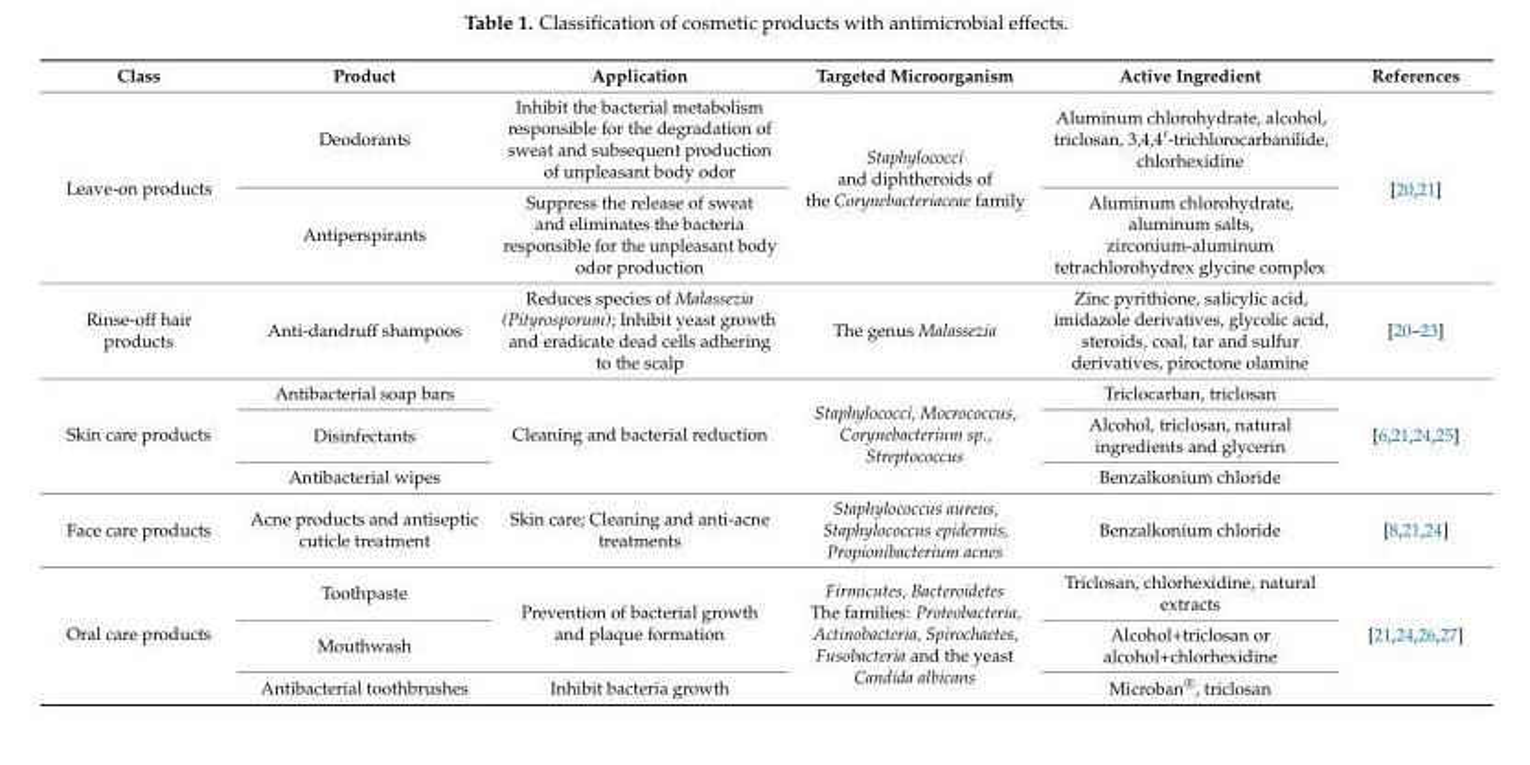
<table><thead><tr><td>Class</td><td>Product</td><td>Application</td><td>Targeted Microorganism</td><td>Active Ingredient</td><td>References</td></tr></thead><tbody><tr><td rowspan="2">Leave-on products</td><td>Deodorants</td><td>Inhibit the bacterial metabolism responsible for the degradation of sweat and subsequent production of unpleasant body odor</td><td rowspan="2">Staphylococci and diphtheroids of the Corynebacteriaceae family</td><td>Aluminum chlorohydrate, alcohol, triclosan, 3,4,4′-trichlorocarbanilide, chlorhexidine</td><td rowspan="2">[20,21]</td></tr><tr><td>Antiperspirants</td><td>Suppress the release of sweat and eliminates the bacteria responsible for the unpleasant body odor production</td><td>Aluminum chlorohydrate, aluminum salts, zirconium-aluminum tetrachlorohydrex glycine complex</td></tr><tr><td>Rinse-off hair products</td><td>Anti-dandruff shampoos</td><td>Reduces species of Malassezia (Pityrosporum); Inhibit yeast growth and eradicate dead cells adhering to the scalp</td><td>The genus Malassezia</td><td>Zinc pyrithione, salicylic acid, imidazole derivatives, glycolic acid, steroids, coal, tar and sulfur derivatives, piroctone olamine</td><td>[20–23]</td></tr><tr><td rowspan="3">Skin care products</td><td>Antibacterial soap bars</td><td rowspan="3">Cleaning and bacterial reduction</td><td rowspan="3">Staphylococci, Mocrococcus, Corynebacterium sp., Streptococcus</td><td>Triclocarban, triclosan</td><td rowspan="3">[6,21,24,25]</td></tr><tr><td>Disinfectants</td><td>Alcohol, triclosan, natural ingredients and glycerin</td></tr><tr><td>Antibacterial wipes</td><td>Benzalkonium chloride</td></tr><tr><td>Face care products</td><td>Acne products and antiseptic cuticle treatment</td><td>Skin care; Cleaning and anti-acne treatments</td><td>Staphylococcus aureus, Staphylococcus epidermis, Propionibacterium acnes</td><td>Benzalkonium chloride</td><td>[8,21,24]</td></tr><tr><td rowspan="3">Oral care products</td><td>Toothpaste</td><td rowspan="2">Prevention of bacterial growth and plaque formation</td><td rowspan="3">Firmicutes, Bacteroidetes The families: Proteobacteria, Actinobacteria, Spirochaetes, Fusobacteria and the yeast Candida albicans</td><td>Triclosan, chlorhexidine, natural extracts</td><td rowspan="3">[21,24,26,27]</td></tr><tr><td>Mouthwash</td><td>Alcohol+triclosan or alcohol+chlorhexidine</td></tr><tr><td>Antibacterial toothbrushes</td><td>Inhibit bacteria growth</td><td>Microban<sup>®</sup>, triclosan</td></tr></tbody></table>